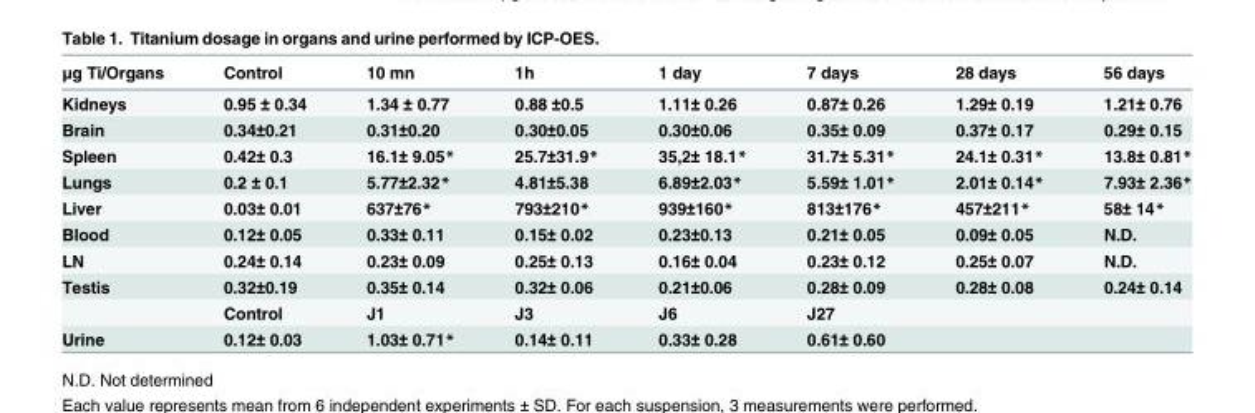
<table><thead><tr><td>μg Ti/Organs</td><td>Control</td><td>10 mn</td><td>1h</td><td>1 day</td><td>7 days</td><td>28 days</td><td>56 days</td></tr></thead><tbody><tr><td>Kidneys</td><td>0.95 ± 0.34</td><td>1.34 ± 0.77</td><td>0.88 ±0.5</td><td>1.11± 0.26</td><td>0.87± 0.26</td><td>1.29± 0.19</td><td>1.21± 0.76</td></tr><tr><td>Brain</td><td>0.34±0.21</td><td>0.31±0.20</td><td>0.30±0.05</td><td>0.30±0.06</td><td>0.35± 0.09</td><td>0.37± 0.17</td><td>0.29± 0.15</td></tr><tr><td>Spleen</td><td>0.42± 0.3</td><td>16.1± 9.05*</td><td>25.7±31.9*</td><td>35,2± 18.1*</td><td>31.7± 5.31*</td><td>24.1± 0.31*</td><td>13.8± 0.81*</td></tr><tr><td>Lungs</td><td>0.2 ± 0.1</td><td>5.77±2.32*</td><td>4.81±5.38</td><td>6.89±2.03*</td><td>5.59± 1.01*</td><td>2.01± 0.14*</td><td>7.93± 2.36*</td></tr><tr><td>Liver</td><td>0.03± 0.01</td><td>637±76*</td><td>793±210*</td><td>939±160*</td><td>813±176*</td><td>457±211*</td><td>58± 14*</td></tr><tr><td>Blood</td><td>0.12± 0.05</td><td>0.33± 0.11</td><td>0.15± 0.02</td><td>0.23±0.13</td><td>0.21± 0.05</td><td>0.09± 0.05</td><td>N.D.</td></tr><tr><td>LN</td><td>0.24± 0.14</td><td>0.23± 0.09</td><td>0.25± 0.13</td><td>0.16± 0.04</td><td>0.23± 0.12</td><td>0.25± 0.07</td><td>N.D.</td></tr><tr><td rowspan="2">Testis</td><td>0.32±0.19</td><td>0.35± 0.14</td><td>0.32± 0.06</td><td>0.21±0.06</td><td>0.28± 0.09</td><td>0.28± 0.08</td><td>0.24± 0.14</td></tr><tr><td>Control</td><td>J1</td><td>J3</td><td>J6</td><td>J27</td><td></td><td></td></tr><tr><td>Urine</td><td>0.12± 0.03</td><td>1.03± 0.71*</td><td>0.14± 0.11</td><td>0.33± 0.28</td><td>0.61± 0.60</td><td></td><td></td></tr></tbody></table>